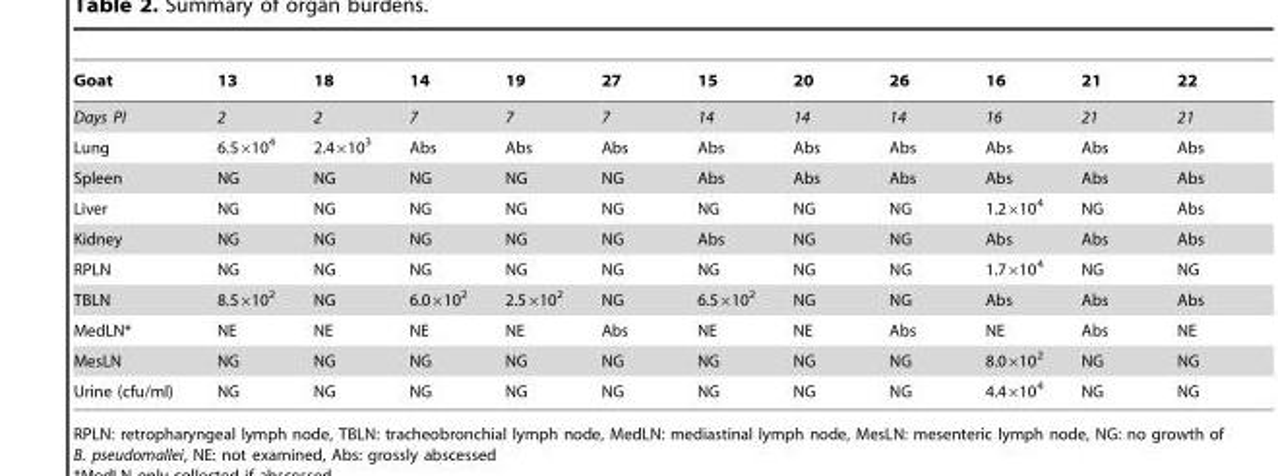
<table><thead><tr><td>Goat</td><td>13</td><td>18</td><td>14</td><td>19</td><td>27</td><td>15</td><td>20</td><td>26</td><td>16</td><td>21</td><td>22</td></tr></thead><tbody><tr><td>Days PI</td><td>2</td><td>2</td><td>7</td><td>7</td><td>7</td><td>14</td><td>14</td><td>14</td><td>16</td><td>21</td><td>21</td></tr><tr><td>Lung</td><td>6.5×10<sup>4</sup></td><td>2.4×10<sup>3</sup></td><td>Abs</td><td>Abs</td><td>Abs</td><td>Abs</td><td>Abs</td><td>Abs</td><td>Abs</td><td>Abs</td><td>Abs</td></tr><tr><td>Spleen</td><td>NG</td><td>NG</td><td>NG</td><td>NG</td><td>NG</td><td>Abs</td><td>Abs</td><td>Abs</td><td>Abs</td><td>Abs</td><td>Abs</td></tr><tr><td>Liver</td><td>NG</td><td>NG</td><td>NG</td><td>NG</td><td>NG</td><td>NG</td><td>NG</td><td>NG</td><td>1.2×10<sup>4</sup></td><td>NG</td><td>Abs</td></tr><tr><td>Kidney</td><td>NG</td><td>NG</td><td>NG</td><td>NG</td><td>NG</td><td>Abs</td><td>NG</td><td>NG</td><td>Abs</td><td>Abs</td><td>Abs</td></tr><tr><td>RPLN</td><td>NG</td><td>NG</td><td>NG</td><td>NG</td><td>NG</td><td>NG</td><td>NG</td><td>NG</td><td>1.7×10<sup>4</sup></td><td>NG</td><td>NG</td></tr><tr><td>TBLN</td><td>8.5×10<sup>2</sup></td><td>NG</td><td>6.0×10<sup>2</sup></td><td>2.5×10<sup>2</sup></td><td>NG</td><td>6.5×10<sup>2</sup></td><td>NG</td><td>NG</td><td>Abs</td><td>Abs</td><td>Abs</td></tr><tr><td>MedLN*</td><td>NE</td><td>NE</td><td>NE</td><td>NE</td><td>Abs</td><td>NE</td><td>NE</td><td>Abs</td><td>NE</td><td>Abs</td><td>NE</td></tr><tr><td>MesLN</td><td>NG</td><td>NG</td><td>NG</td><td>NG</td><td>NG</td><td>NG</td><td>NG</td><td>NG</td><td>8.0×10<sup>2</sup></td><td>NG</td><td>NG</td></tr><tr><td>Urine (cfu/ml)</td><td>NG</td><td>NG</td><td>NG</td><td>NG</td><td>NG</td><td>NG</td><td>NG</td><td>NG</td><td>4.4×10<sup>4</sup></td><td>NG</td><td>NG</td></tr></tbody></table>